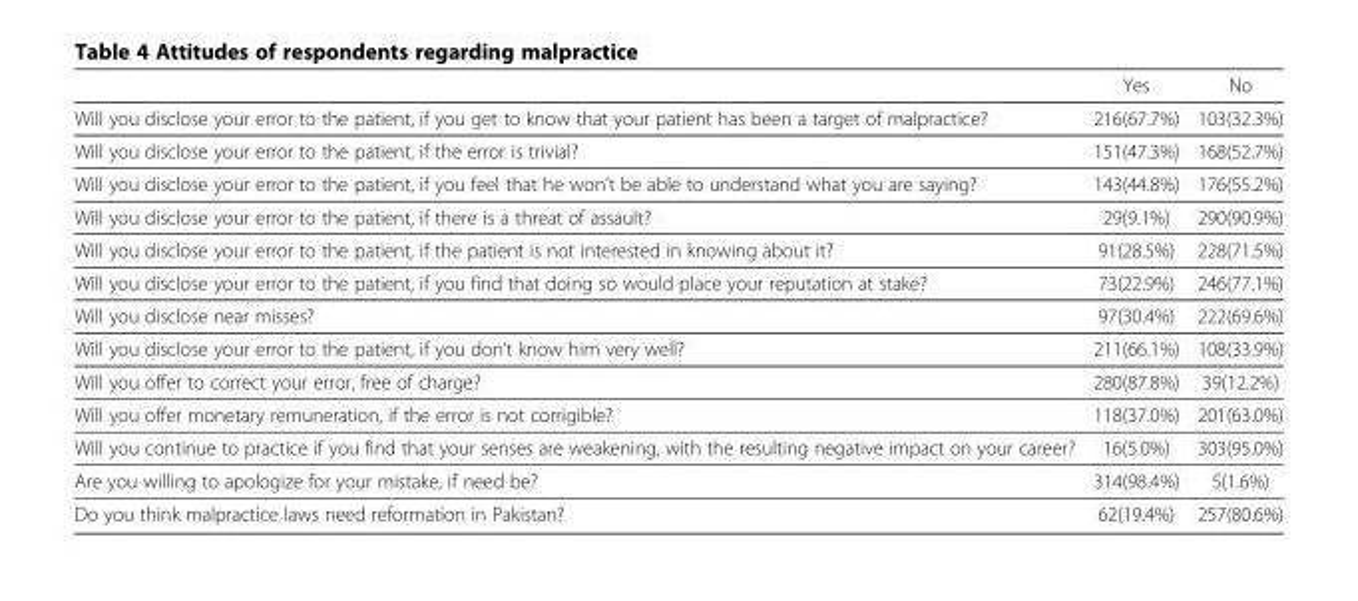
<table><thead><tr><td></td><td>Yes</td><td>No</td></tr></thead><tbody><tr><td>Will you disclose your error to the patient, if you get to know that your patient has been a target of malpractice?</td><td>216(67.7%)</td><td>103(32.3%)</td></tr><tr><td>Will you disclose your error to the patient, if the error is trivial?</td><td>151(47.3%)</td><td>168(52.7%)</td></tr><tr><td>Will you disclose your error to the patient, if you feel that he won’t be able to understand what you are saying?</td><td>143(44.8%)</td><td>176(55.2%)</td></tr><tr><td>Will you disclose your error to the patient, if there is a threat of assault?</td><td>29(9.1%)</td><td>290(90.9%)</td></tr><tr><td>Will you disclose your error to the patient, if the patient is not interested in knowing about it?</td><td>91(28.5%)</td><td>228(71.5%)</td></tr><tr><td>Will you disclose your error to the patient, if you find that doing so would place your reputation at stake?</td><td>73(22.9%)</td><td>246(77.1%)</td></tr><tr><td>Will you disclose near misses?</td><td>97(30.4%)</td><td>222(69.6%)</td></tr><tr><td>Will you disclose your error to the patient, if you don’t know him very well?</td><td>211(66.1%)</td><td>108(33.9%)</td></tr><tr><td>Will you offer to correct your error, free of charge?</td><td>280(87.8%)</td><td>39(12.2%)</td></tr><tr><td>Will you offer monetary remuneration, if the error is not corrigible?</td><td>118(37.0%)</td><td>201(63.0%)</td></tr><tr><td>Will you continue to practice if you find that your senses are weakening, with the resulting negative impact on your career?</td><td>16(5.0%)</td><td>303(95.0%)</td></tr><tr><td>Are you willing to apologize for your mistake, if need be?</td><td>314(98.4%)</td><td>5(1.6%)</td></tr><tr><td>Do you think malpractice laws need reformation in Pakistan?</td><td>62(19.4%)</td><td>257(80.6%)</td></tr></tbody></table>